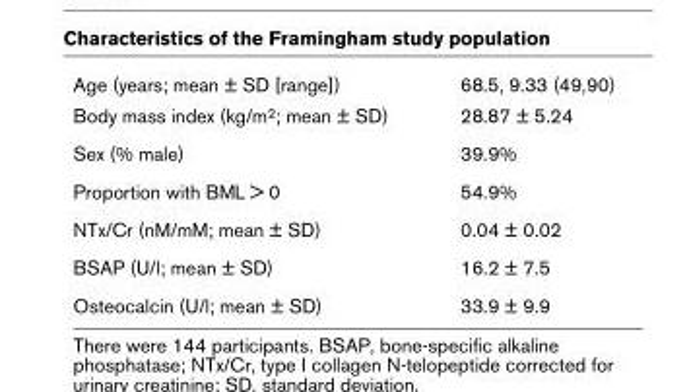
<table><tbody><tr><td>Age (years; mean ± SD [range])</td><td>68.5, 9.33 (49,90)</td></tr><tr><td>Body mass index (kg/m<sup>2</sup>; mean ± SD)</td><td>28.87 ± 5.24</td></tr><tr><td>Sex (% male)</td><td>39.9%</td></tr><tr><td>Proportion with BML &gt; 0</td><td>54.9%</td></tr><tr><td>NTx/Cr (nM/mM; mean ± SD)</td><td>0.04 ± 0.02</td></tr><tr><td>BSAP (U/l; mean ± SD)</td><td>16.2 ± 7.5</td></tr><tr><td>Osteocalcin (U/l; mean ± SD)</td><td>33.9 ± 9.9</td></tr></tbody></table>